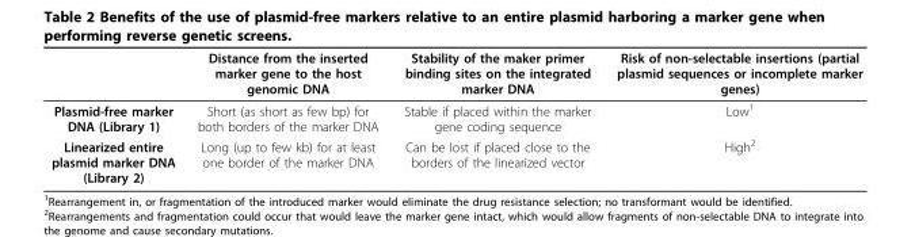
<table><thead><tr><td></td><td>Distance from the inserted marker gene to the host genomic DNA</td><td>Stability of the maker primer binding sites on the integrated marker DNA</td><td>Risk of non-selectable insertions (partial plasmid sequences or incomplete marker genes)</td></tr></thead><tbody><tr><td>Plasmid-free marker DNA (Library 1)</td><td>Short (as short as few bp) for both borders of the marker DNA</td><td>Stable if placed within the marker gene coding sequence</td><td>Low<sup>1</sup></td></tr><tr><td>Linearized entire plasmid marker DNA (Library 2)</td><td>Long (up to few kb) for at least one border of the marker DNA</td><td>Can be lost if placed close to the borders of the linearized vector</td><td>High<sup>2</sup></td></tr></tbody></table>